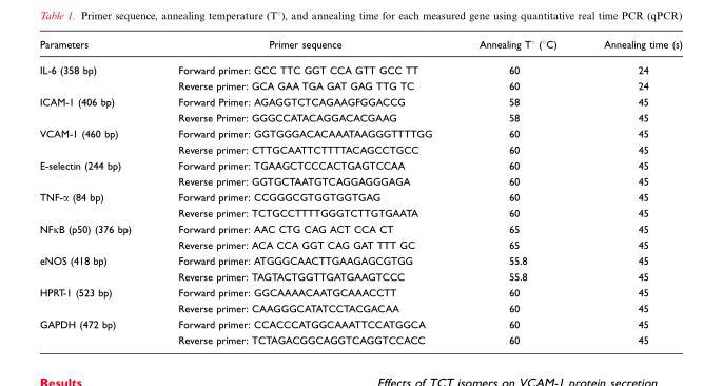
<table><thead><tr><td>Parameters</td><td>Primer sequence</td><td>Annealing T° (°C)</td><td>Annealing time (s)</td></tr></thead><tbody><tr><td rowspan="2">IL-6 (358 bp)</td><td>Forward primer: GCC TTC GGT CCA GTT GCC TT</td><td>60</td><td>24</td></tr><tr><td>Reverse primer: GCA GAA TGA GAT GAG TTG TC</td><td>60</td><td>24</td></tr><tr><td rowspan="2">ICAM-1 (406 bp)</td><td>Forward Primer: AGAGGTCTCAGAAGFGGACCG</td><td>58</td><td>45</td></tr><tr><td>Reverse Primer: GGGCCATACAGGACACGAAG</td><td>58</td><td>45</td></tr><tr><td rowspan="2">VCAM-1 (460 bp)</td><td>Forward primer: GGTGGGACACAAATAAGGGTTTTGG</td><td>60</td><td>45</td></tr><tr><td>Reverse primer: CTTGCAATTCTTTTACAGCCTGCC</td><td>60</td><td>45</td></tr><tr><td rowspan="2">E-selectin (244 bp)</td><td>Forward primer: TGAAGCTCCCACTGAGTCCAA</td><td>60</td><td>45</td></tr><tr><td>Reverse primer: GGTGCTAATGTCAGGAGGGAGA</td><td>60</td><td>45</td></tr><tr><td rowspan="2">TNF-α (84 bp)</td><td>Forward primer: CCGGGCGTGGTGGTGAG</td><td>60</td><td>45</td></tr><tr><td>Reverse primer: TCTGCCTTTTGGGTCTTGTGAATA</td><td>60</td><td>45</td></tr><tr><td rowspan="2">NFκB (p50) (376 bp)</td><td>Forward primer: AAC CTG CAG ACT CCA CT</td><td>65</td><td>45</td></tr><tr><td>Reverse primer: ACA CCA GGT CAG GAT TTT GC</td><td>65</td><td>45</td></tr><tr><td rowspan="2">eNOS (418 bp)</td><td>Forward primer: ATGGGCAACTTGAAGAGCGTGG</td><td>55.8</td><td>45</td></tr><tr><td>Reverse primer: TAGTACTGGTTGATGAAGTCCC</td><td>55.8</td><td>45</td></tr><tr><td rowspan="2">HPRT-1 (523 bp)</td><td>Forward primer: GGCAAAACAATGCAAACCTT</td><td>60</td><td>45</td></tr><tr><td>Reverse primer: CAAGGGCATATCCTACGACAA</td><td>60</td><td>45</td></tr><tr><td rowspan="2">GAPDH (472 bp)</td><td>Forward primer: CCACCCATGGCAAATTCCATGGCA</td><td>60</td><td>45</td></tr><tr><td>Reverse primer: TCTAGACGGCAGGTCAGGTCCACC</td><td>60</td><td>45</td></tr></tbody></table>